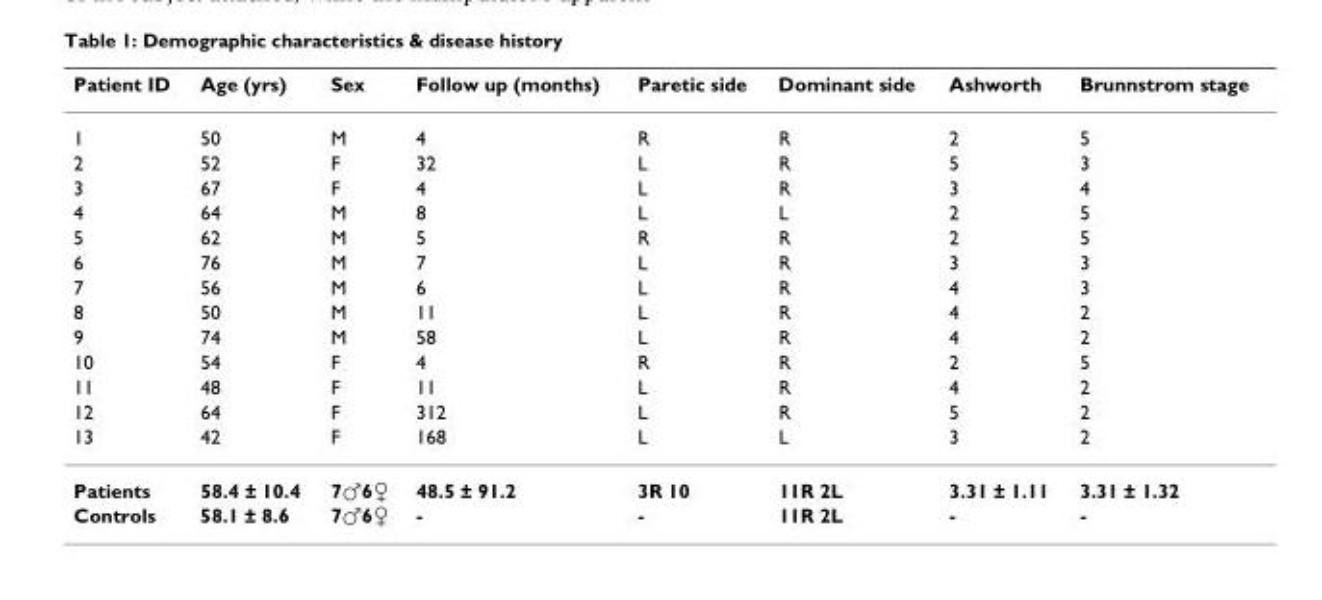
<table><thead><tr><td>Patient ID</td><td>Age (yrs)</td><td>Sex</td><td>Follow up (months)</td><td>Paretic side</td><td>Dominant side</td><td>Ashworth</td><td>Brunnstrom stage</td></tr></thead><tbody><tr><td>1</td><td>50</td><td>M</td><td>4</td><td>R</td><td>R</td><td>2</td><td>5</td></tr><tr><td>2</td><td>52</td><td>F</td><td>32</td><td>L</td><td>R</td><td>5</td><td>3</td></tr><tr><td>3</td><td>67</td><td>F</td><td>4</td><td>L</td><td>R</td><td>3</td><td>4</td></tr><tr><td>4</td><td>64</td><td>M</td><td>8</td><td>L</td><td>L</td><td>2</td><td>5</td></tr><tr><td>5</td><td>62</td><td>M</td><td>5</td><td>R</td><td>R</td><td>2</td><td>5</td></tr><tr><td>6</td><td>76</td><td>M</td><td>7</td><td>L</td><td>R</td><td>3</td><td>3</td></tr><tr><td>7</td><td>56</td><td>M</td><td>6</td><td>L</td><td>R</td><td>4</td><td>3</td></tr><tr><td>8</td><td>50</td><td>M</td><td>11</td><td>L</td><td>R</td><td>4</td><td>2</td></tr><tr><td>9</td><td>74</td><td>M</td><td>58</td><td>L</td><td>R</td><td>4</td><td>2</td></tr><tr><td>10</td><td>54</td><td>F</td><td>4</td><td>R</td><td>R</td><td>2</td><td>5</td></tr><tr><td>11</td><td>48</td><td>F</td><td>11</td><td>L</td><td>R</td><td>4</td><td>2</td></tr><tr><td>12</td><td>64</td><td>F</td><td>312</td><td>L</td><td>R</td><td>5</td><td>2</td></tr><tr><td>13</td><td>42</td><td>F</td><td>168</td><td>L</td><td>L</td><td>3</td><td>2</td></tr><tr><td>Patients</td><td>58.4 ± 10.4</td><td>7♂6♀</td><td>48.5 ± 91.2</td><td>3R 10</td><td>11R 2L</td><td>3.31 ± 1.11</td><td>3.31 ± 1.32</td></tr><tr><td>Controls</td><td>58.1 ± 8.6</td><td>7♂6♀</td><td>-</td><td>-</td><td>11R 2L</td><td>-</td><td>-</td></tr></tbody></table>